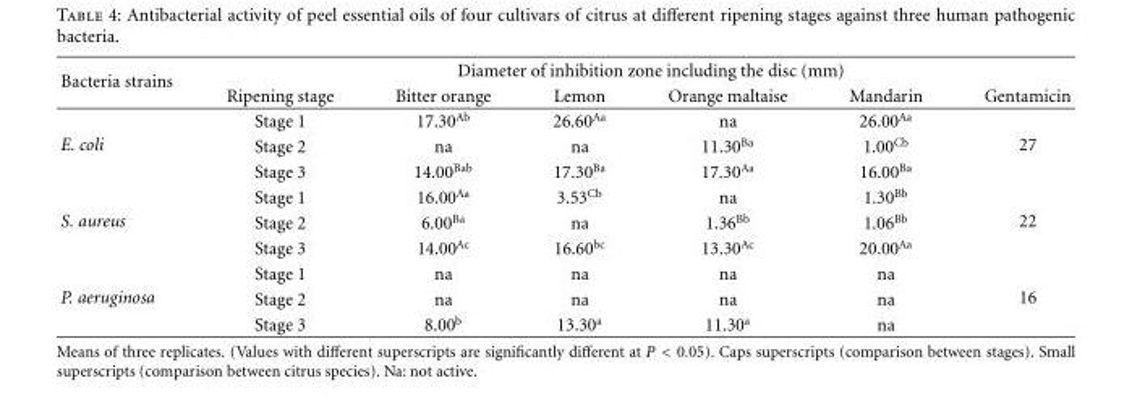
<table><thead><tr><td rowspan="2">Bacteria strains</td><td colspan="6">Diameter of inhibition zone including the disc (mm)</td></tr><tr><td>Ripening stage</td><td>Bitter orange</td><td>Lemon</td><td>Orange maltaise</td><td>Mandarin</td><td>Gentamicin</td></tr></thead><tbody><tr><td rowspan="3">E. coli</td><td>Stage 1</td><td>17.30<sup>Ab</sup></td><td>26.60<sup>Aa</sup></td><td>na</td><td>26.00<sup>Aa</sup></td><td rowspan="3">27</td></tr><tr><td>Stage 2</td><td>na</td><td>na</td><td>11.30<sup>Ba</sup></td><td>1.00<sup>Cb</sup></td></tr><tr><td>Stage 3</td><td>14.00<sup>Bab</sup></td><td>17.30<sup>Ba</sup></td><td>17.30<sup>Aa</sup></td><td>16.00<sup>Ba</sup></td></tr><tr><td rowspan="3">S. aureus</td><td>Stage 1</td><td>16.00<sup>Aa</sup></td><td>3.53<sup>Cb</sup></td><td>na</td><td>1.30<sup>Bb</sup></td><td rowspan="3">22</td></tr><tr><td>Stage 2</td><td>6.00<sup>Ba</sup></td><td>na</td><td>1.36<sup>Bb</sup></td><td>1.06<sup>Bb</sup></td></tr><tr><td>Stage 3</td><td>14.00<sup>Ac</sup></td><td>16.60<sup>bc</sup></td><td>13.30<sup>Ac</sup></td><td>20.00<sup>Aa</sup></td></tr><tr><td rowspan="3">P. aeruginosa</td><td>Stage 1</td><td>na</td><td>na</td><td>na</td><td>na</td><td rowspan="3">16</td></tr><tr><td>Stage 2</td><td>na</td><td>na</td><td>na</td><td>na</td></tr><tr><td>Stage 3</td><td>8.00<sup>b</sup></td><td>13.30<sup>a</sup></td><td>11.30<sup>a</sup></td><td>na</td></tr></tbody></table>